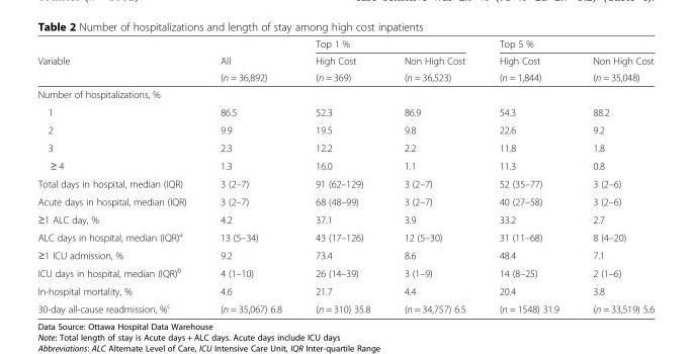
<table><thead><tr><td rowspan="3">Variable</td><td rowspan="3">All (n = 36,892)</td><td colspan="2">Top 1 %</td><td colspan="2">Top 5 %</td></tr><tr><td rowspan="2">High Cost (n = 369)</td><td rowspan="2">Non High Cost (n = 36,523)</td><td rowspan="2">High Cost (n = 1,844)</td><td rowspan="2">Non High Cost (n = 35,048)</td></tr><tr></tr></thead><tbody><tr><td colspan="6">Number of hospitalizations, %</td></tr><tr><td>1</td><td>86.5</td><td>52.3</td><td>86.9</td><td>54.3</td><td>88.2</td></tr><tr><td>2</td><td>9.9</td><td>19.5</td><td>9.8</td><td>22.6</td><td>9.2</td></tr><tr><td>3</td><td>2.3</td><td>12.2</td><td>2.2</td><td>11.8</td><td>1.8</td></tr><tr><td>≥ 4</td><td>1.3</td><td>16.0</td><td>1.1</td><td>11.3</td><td>0.8</td></tr><tr><td>Total days in hospital, median (IQR)</td><td>3 (2–7)</td><td>91 (62–129)</td><td>3 (2–7)</td><td>52 (35–77)</td><td>3 (2–6)</td></tr><tr><td>Acute days in hospital, median (IQR)</td><td>3 (2–7)</td><td>68 (48–99)</td><td>3 (2–7)</td><td>40 (27–58)</td><td>3 (2–6)</td></tr><tr><td>≥1 ALC day, %</td><td>4.2</td><td>37.1</td><td>3.9</td><td>33.2</td><td>2.7</td></tr><tr><td>ALC days in hospital, median (IQR)<sup>a</sup></td><td>13 (5–34)</td><td>43 (17–126)</td><td>12 (5–30)</td><td>31 (11–68)</td><td>8 (4–20)</td></tr><tr><td>≥1 ICU admission, %</td><td>9.2</td><td>73.4</td><td>8.6</td><td>48.4</td><td>7.1</td></tr><tr><td>ICU days in hospital, median (IQR)<sup>b</sup></td><td>4 (1–10)</td><td>26 (14–39)</td><td>3 (1–9)</td><td>14 (8–25)</td><td>2 (1–6)</td></tr><tr><td>In-hospital mortality, %</td><td>4.6</td><td>21.7</td><td>4.4</td><td>20.4</td><td>3.8</td></tr><tr><td>30-day all-cause readmission, %<sup>c</sup></td><td>(n = 35,067) 6.8</td><td>(n = 310) 35.8</td><td>(n = 34,757) 6.5</td><td>(n = 1548) 31.9</td><td>(n = 33,519) 5.6</td></tr></tbody></table>